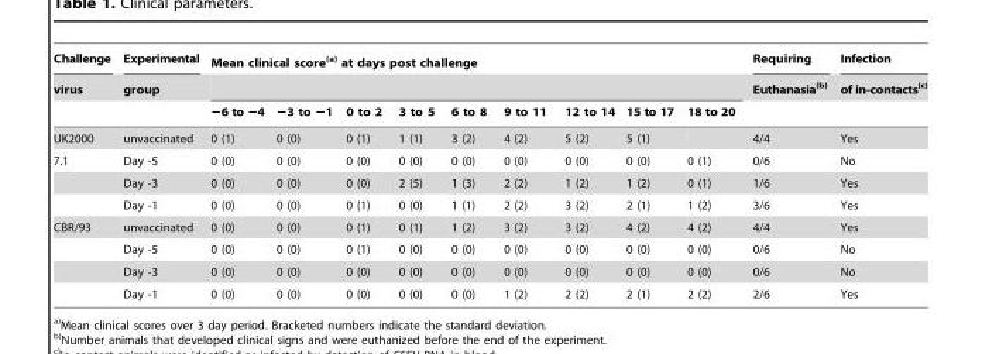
<table><thead><tr><td rowspan="3">Challenge virus</td><td rowspan="3">Experimental group</td><td colspan="9">Mean clinical score(a) at days post challenge</td><td rowspan="3">Requiring Euthanasia(b)</td><td rowspan="3">Infection of in-contacts(c)</td></tr><tr><td rowspan="2">−6 to −4</td><td rowspan="2">−3 to −1</td><td rowspan="2">0 to 2</td><td rowspan="2">3 to 5</td><td rowspan="2">6 to 8</td><td rowspan="2">9 to 11</td><td rowspan="2">12 to 14</td><td rowspan="2">15 to 17</td><td rowspan="2">18 to 20</td></tr><tr></tr></thead><tbody><tr><td>UK2000</td><td>unvaccinated</td><td>0 (1)</td><td>0 (0)</td><td>0 (1)</td><td>1 (1)</td><td>3 (2)</td><td>4 (2)</td><td>5 (2)</td><td>5 (1)</td><td></td><td>4/4</td><td>Yes</td></tr><tr><td rowspan="3">7.1</td><td>Day -5</td><td>0 (0)</td><td>0 (0)</td><td>0 (0)</td><td>0 (0)</td><td>0 (0)</td><td>0 (0)</td><td>0 (0)</td><td>0 (0)</td><td>0 (1)</td><td>0/6</td><td>No</td></tr><tr><td>Day -3</td><td>0 (0)</td><td>0 (0)</td><td>0 (0)</td><td>2 (5)</td><td>1 (3)</td><td>2 (2)</td><td>1 (2)</td><td>1 (2)</td><td>0 (1)</td><td>1/6</td><td>Yes</td></tr><tr><td>Day -1</td><td>0 (0)</td><td>0 (0)</td><td>0 (1)</td><td>0 (0)</td><td>1 (1)</td><td>2 (2)</td><td>3 (2)</td><td>2 (1)</td><td>1 (2)</td><td>3/6</td><td>Yes</td></tr><tr><td rowspan="4">CBR/93</td><td>unvaccinated</td><td>0 (0)</td><td>0 (0)</td><td>0 (1)</td><td>0 (1)</td><td>1 (2)</td><td>3 (2)</td><td>3 (2)</td><td>4 (2)</td><td>4 (2)</td><td>4/4</td><td>Yes</td></tr><tr><td>Day -5</td><td>0 (0)</td><td>0 (0)</td><td>0 (1)</td><td>0 (0)</td><td>0 (0)</td><td>0 (0)</td><td>0 (0)</td><td>0 (0)</td><td>0 (0)</td><td>0/6</td><td>No</td></tr><tr><td>Day -3</td><td>0 (0)</td><td>0 (0)</td><td>0 (0)</td><td>0 (0)</td><td>0 (0)</td><td>0 (0)</td><td>0 (0)</td><td>0 (0)</td><td>0 (0)</td><td>0/6</td><td>No</td></tr><tr><td>Day -1</td><td>0 (0)</td><td>0 (0)</td><td>0 (0)</td><td>0 (0)</td><td>0 (0)</td><td>1 (2)</td><td>2 (2)</td><td>2 (1)</td><td>2 (2)</td><td>2/6</td><td>Yes</td></tr></tbody></table>